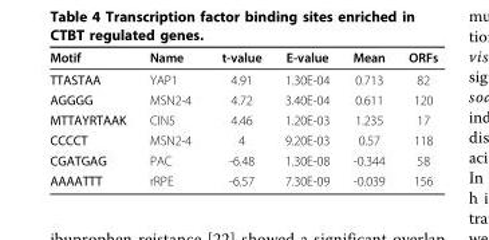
<table><thead><tr><td>Motif</td><td>Name</td><td>t-value</td><td>E-value</td><td>Mean</td><td>ORFs</td></tr></thead><tbody><tr><td>TTASTAA</td><td>YAP1</td><td>4.91</td><td>1.30E-04</td><td>0.713</td><td>82</td></tr><tr><td>AGGGG</td><td>MSN2-4</td><td>4.72</td><td>3.40E-04</td><td>0.611</td><td>120</td></tr><tr><td>MTTAYRTAAK</td><td>CIN5</td><td>4.46</td><td>1.20E-03</td><td>1.235</td><td>17</td></tr><tr><td>CCCCT</td><td>MSN2-4</td><td>4</td><td>9.20E-03</td><td>0.57</td><td>118</td></tr><tr><td>CGATGAG</td><td>PAC</td><td>-6.48</td><td>1.30E-08</td><td>-0.344</td><td>58</td></tr><tr><td>AAAATTT</td><td>rRPE</td><td>-6.57</td><td>7.30E-09</td><td>-0.039</td><td>156</td></tr></tbody></table>